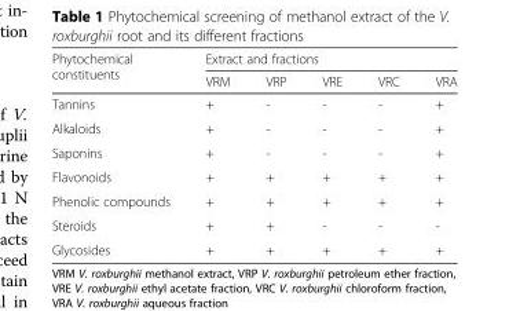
<table><thead><tr><td rowspan="2">Phytochemical constituents</td><td colspan="5">Extract and fractions</td></tr><tr><td>VRM</td><td>VRP</td><td>VRE</td><td>VRC</td><td>VRA</td></tr></thead><tbody><tr><td>Tannins</td><td>+</td><td>-</td><td>-</td><td>-</td><td>+</td></tr><tr><td>Alkaloids</td><td>+</td><td>-</td><td>-</td><td>-</td><td>+</td></tr><tr><td>Saponins</td><td>+</td><td>-</td><td>-</td><td>-</td><td>+</td></tr><tr><td>Flavonoids</td><td>+</td><td>+</td><td>+</td><td>+</td><td>+</td></tr><tr><td>Phenolic compounds</td><td>+</td><td>+</td><td>+</td><td>+</td><td>+</td></tr><tr><td>Steroids</td><td>+</td><td>+</td><td>-</td><td>-</td><td>-</td></tr><tr><td>Glycosides</td><td>+</td><td>+</td><td>+</td><td>+</td><td>+</td></tr></tbody></table>